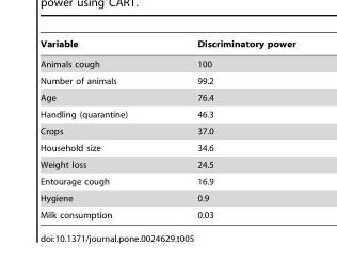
<table><thead><tr><td>Variable</td><td>Discriminatory power</td></tr></thead><tbody><tr><td>Animals cough</td><td>100</td></tr><tr><td>Number of animals</td><td>99.2</td></tr><tr><td>Age</td><td>76.4</td></tr><tr><td>Handling (quarantine)</td><td>46.3</td></tr><tr><td>Crops</td><td>37.0</td></tr><tr><td>Household size</td><td>34.6</td></tr><tr><td>Weight loss</td><td>24.5</td></tr><tr><td>Entourage cough</td><td>16.9</td></tr><tr><td>Hygiene</td><td>0.9</td></tr><tr><td>Milk consumption</td><td>0.03</td></tr></tbody></table>